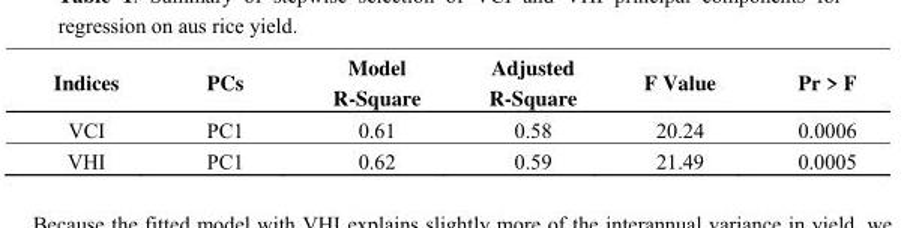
<table><thead><tr><td>Indices</td><td>PCs</td><td>Model R-Square</td><td>Adjusted R-Square</td><td>F Value</td><td>Pr &gt; F</td></tr></thead><tbody><tr><td>VCI</td><td>PC1</td><td>0.61</td><td>0.58</td><td>20.24</td><td>0.0006</td></tr><tr><td>VHI</td><td>PC1</td><td>0.62</td><td>0.59</td><td>21.49</td><td>0.0005</td></tr></tbody></table>